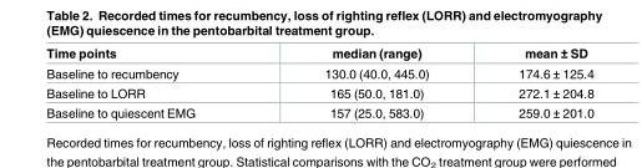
<table><thead><tr><td>Time points</td><td>median (range)</td><td>mean ± SD</td></tr></thead><tbody><tr><td>Baseline to recumbency</td><td>130.0 (40.0, 445.0)</td><td>174.6 ± 125.4</td></tr><tr><td>Baseline to LORR</td><td>165 (50.0, 181.0)</td><td>272.1 ± 204.8</td></tr><tr><td>Baseline to quiescent EMG</td><td>157 (25.0, 583.0)</td><td>259.0 ± 201.0</td></tr></tbody></table>